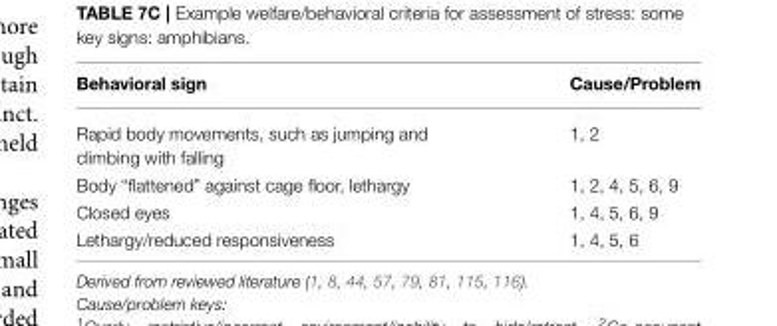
<table><thead><tr><td>Behavioral sign</td><td>Cause/Problem</td></tr></thead><tbody><tr><td>Rapid body movements, such as jumping and climbing with falling</td><td>1, 2</td></tr><tr><td>Body “flattened” against cage floor, lethargy</td><td>1, 2, 4, 5, 6, 9</td></tr><tr><td>Closed eyes</td><td>1, 4, 5, 6, 9</td></tr><tr><td>Lethargy/reduced responsiveness</td><td>1, 4, 5, 6</td></tr></tbody></table>